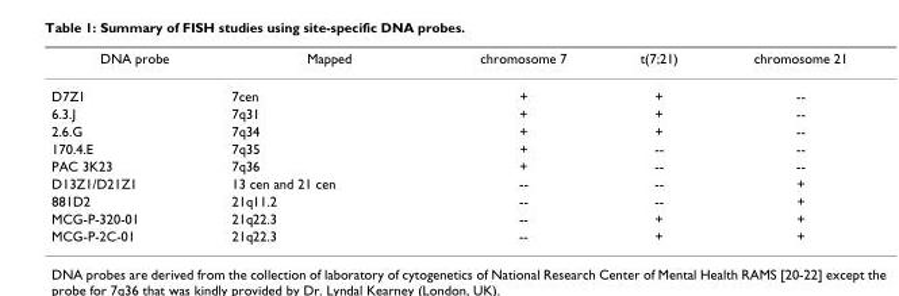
<table><thead><tr><td>DNA probe</td><td>Mapped</td><td>chromosome 7</td><td>t(7;21)</td><td>chromosome 21</td></tr></thead><tbody><tr><td>D7Z1</td><td>7cen</td><td>+</td><td>+</td><td>--</td></tr><tr><td>6.3.J</td><td>7q31</td><td>+</td><td>+</td><td>--</td></tr><tr><td>2.6.G</td><td>7q34</td><td>+</td><td>+</td><td>--</td></tr><tr><td>170.4.E</td><td>7q35</td><td>+</td><td>--</td><td>--</td></tr><tr><td>PAC 3K23</td><td>7q36</td><td>+</td><td>--</td><td>--</td></tr><tr><td>D13Z1/D21Z1</td><td>13 cen and 21 cen</td><td>--</td><td>--</td><td>+</td></tr><tr><td>881D2</td><td>21q11.2</td><td>--</td><td>--</td><td>+</td></tr><tr><td>MCG-P-320-01</td><td>21q22.3</td><td>--</td><td>+</td><td>+</td></tr><tr><td>MCG-P-2C-01</td><td>21q22.3</td><td>--</td><td>+</td><td>+</td></tr></tbody></table>